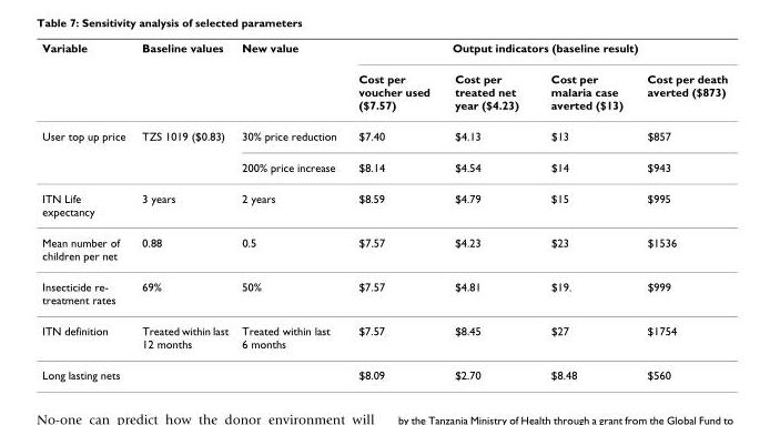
<table><thead><tr><td rowspan="2">Variable</td><td rowspan="2">Baseline values</td><td rowspan="2">New value</td><td colspan="4">Output indicators (baseline result)</td></tr><tr><td>Cost per voucher used ($7.57)</td><td>Cost per treated net year ($4.23)</td><td>Cost per malaria case averted ($13)</td><td>Cost per death averted ($873)</td></tr></thead><tbody><tr><td rowspan="2">User top up price</td><td>TZS 1019 ($0.83)</td><td>30% price reduction</td><td>$7.40</td><td>$4.13</td><td>$13</td><td>$857</td></tr><tr><td></td><td>200% price increase</td><td>$8.14</td><td>$4.54</td><td>$14</td><td>$943</td></tr><tr><td>ITN Life expectancy</td><td>3 years</td><td>2 years</td><td>$8.59</td><td>$4.79</td><td>$15</td><td>$995</td></tr><tr><td>Mean number of children per net</td><td>0.88</td><td>0.5</td><td>$7.57</td><td>$4.23</td><td>$23</td><td>$1536</td></tr><tr><td>Insecticide re- treatment rates</td><td>69%</td><td>50%</td><td>$7.57</td><td>$4.81</td><td>$19.</td><td>$999</td></tr><tr><td>ITN definition</td><td>Treated within last 12 months</td><td>Treated within last 6 months</td><td>$7.57</td><td>$8.45</td><td>$27</td><td>$1754</td></tr><tr><td>Long lasting nets</td><td></td><td></td><td>$8.09</td><td>$2.70</td><td>$8.48</td><td>$560</td></tr></tbody></table>